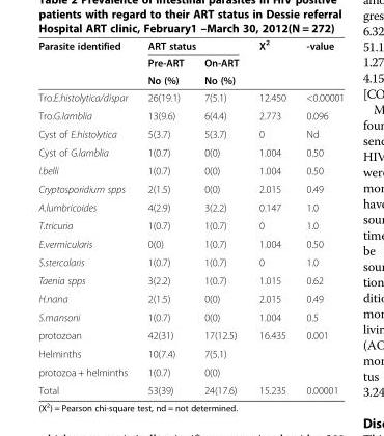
<table><thead><tr><td rowspan="3">Parasite identified</td><td colspan="2">ART status</td><td rowspan="3">X<sup>2</sup></td><td rowspan="3">-value</td></tr><tr><td rowspan="2">Pre-ART No (%)</td><td rowspan="2">On-ART No (%)</td></tr><tr></tr></thead><tbody><tr><td>Tro.E.histolytica/dispar</td><td>26(19.1)</td><td>7(5.1)</td><td>12.450</td><td>&lt;0.00001</td></tr><tr><td>Tro.G.lamblia</td><td>13(9.6)</td><td>6(4.4)</td><td>2.773</td><td>0.096</td></tr><tr><td>Cyst of E.histolytica</td><td>5(3.7)</td><td>5(3.7)</td><td>0</td><td>Nd</td></tr><tr><td>Cyst of G.lamblia</td><td>1(0.7)</td><td>0(0)</td><td>1.004</td><td>0.50</td></tr><tr><td>I.belli</td><td>1(0.7)</td><td>0(0)</td><td>1.004</td><td>0.50</td></tr><tr><td>Cryptosporidium spps</td><td>2(1.5)</td><td>0(0)</td><td>2.015</td><td>0.49</td></tr><tr><td>A.lumbricoides</td><td>4(2.9)</td><td>3(2.2)</td><td>0.147</td><td>1.0</td></tr><tr><td>T.tricuria</td><td>1(0.7)</td><td>1(0.7)</td><td>0</td><td>1.0</td></tr><tr><td>E.vermicularis</td><td>0(0)</td><td>1(0.7)</td><td>1.004</td><td>0.50</td></tr><tr><td>S.stercolaris</td><td>1(0.7)</td><td>1(0.7)</td><td>0</td><td>1.0</td></tr><tr><td>Taenia spps</td><td>3(2.2)</td><td>1(0.7)</td><td>1.015</td><td>0.62</td></tr><tr><td>H.nana</td><td>2(1.5)</td><td>0(0)</td><td>2.015</td><td>0.49</td></tr><tr><td>S.mansoni</td><td>1(0.7)</td><td>0(0)</td><td>1.004</td><td>0.5</td></tr><tr><td>protozoan</td><td>42(31)</td><td>17(12.5)</td><td rowspan="3">16.435</td><td rowspan="3">0.001</td></tr><tr><td>Helminths</td><td>10(7.4)</td><td>7(5.1)</td></tr><tr><td>protozoa + helminths</td><td>1(0.7)</td><td>0(0)</td></tr><tr><td>Total</td><td>53(39)</td><td>24(17.6)</td><td>15.235</td><td>0.00001</td></tr></tbody></table>